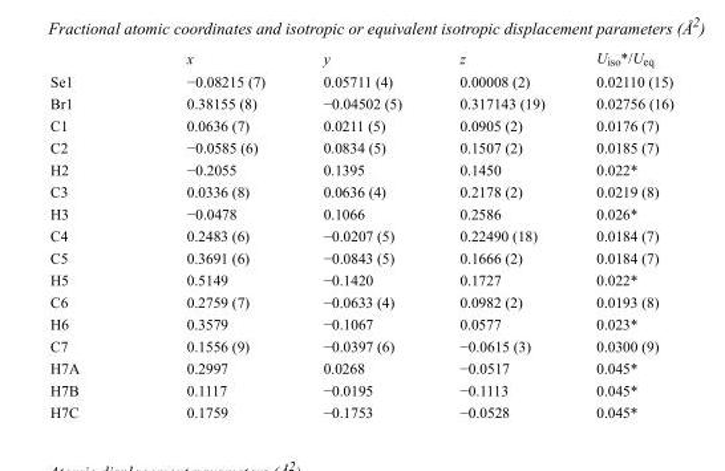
<table><thead><tr><td></td><td>x</td><td>y</td><td>z</td><td>U<sub>iso</sub>*/U<sub>eq</sub></td></tr></thead><tbody><tr><td>Se1</td><td>−0.08215 (7)</td><td>0.05711 (4)</td><td>0.00008 (2)</td><td>0.02110 (15)</td></tr><tr><td>Br1</td><td>0.38155 (8)</td><td>−0.04502 (5)</td><td>0.317143 (19)</td><td>0.02756 (16)</td></tr><tr><td>C1</td><td>0.0636 (7)</td><td>0.0211 (5)</td><td>0.0905 (2)</td><td>0.0176 (7)</td></tr><tr><td>C2</td><td>−0.0585 (6)</td><td>0.0834 (5)</td><td>0.1507 (2)</td><td>0.0185 (7)</td></tr><tr><td>H2</td><td>−0.2055</td><td>0.1395</td><td>0.1450</td><td>0.022*</td></tr><tr><td>C3</td><td>0.0336 (8)</td><td>0.0636 (4)</td><td>0.2178 (2)</td><td>0.0219 (8)</td></tr><tr><td>H3</td><td>−0.0478</td><td>0.1066</td><td>0.2586</td><td>0.026*</td></tr><tr><td>C4</td><td>0.2483 (6)</td><td>−0.0207 (5)</td><td>0.22490 (18)</td><td>0.0184 (7)</td></tr><tr><td>C5</td><td>0.3691 (6)</td><td>−0.0843 (5)</td><td>0.1666 (2)</td><td>0.0184 (7)</td></tr><tr><td>H5</td><td>0.5149</td><td>−0.1420</td><td>0.1727</td><td>0.022*</td></tr><tr><td>C6</td><td>0.2759 (7)</td><td>−0.0633 (4)</td><td>0.0982 (2)</td><td>0.0193 (8)</td></tr><tr><td>H6</td><td>0.3579</td><td>−0.1067</td><td>0.0577</td><td>0.023*</td></tr><tr><td>C7</td><td>0.1556 (9)</td><td>−0.0397 (6)</td><td>−0.0615 (3)</td><td>0.0300 (9)</td></tr><tr><td>H7A</td><td>0.2997</td><td>0.0268</td><td>−0.0517</td><td>0.045*</td></tr><tr><td>H7B</td><td>0.1117</td><td>−0.0195</td><td>−0.1113</td><td>0.045*</td></tr><tr><td>H7C</td><td>0.1759</td><td>−0.1753</td><td>−0.0528</td><td>0.045*</td></tr></tbody></table>